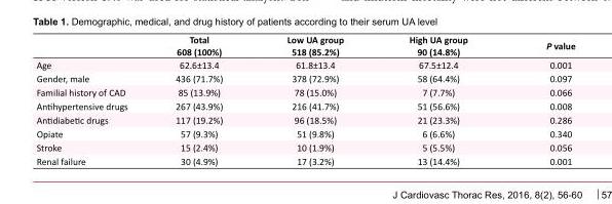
<table><thead><tr><td></td><td>Total 608 (100%)</td><td>Low UA group 518 (85.2%)</td><td>High UA group 90 (14.8%)</td><td>P value</td></tr></thead><tbody><tr><td>Age</td><td>62.6±13.4</td><td>61.8±13.4</td><td>67.5±12.4</td><td>0.001</td></tr><tr><td>Gender, male</td><td>436 (71.7%)</td><td>378 (72.9%)</td><td>58 (64.4%)</td><td>0.097</td></tr><tr><td>Familial history of CAD</td><td>85 (13.9%)</td><td>78 (15.0%)</td><td>7 (7.7%)</td><td>0.066</td></tr><tr><td>Antihypertensive drugs</td><td>267 (43.9%)</td><td>216 (41.7%)</td><td>51 (56.6%)</td><td>0.008</td></tr><tr><td>Antidiabetic drugs</td><td>117 (19.2%)</td><td>96 (18.5%)</td><td>21 (23.3%)</td><td>0.286</td></tr><tr><td>Opiate</td><td>57 (9.3%)</td><td>51 (9.8%)</td><td>6 (6.6%)</td><td>0.340</td></tr><tr><td>Stroke</td><td>15 (2.4%)</td><td>10 (1.9%)</td><td>5 (5.5%)</td><td>0.056</td></tr><tr><td>Renal failure</td><td>30 (4.9%)</td><td>17 (3.2%)</td><td>13 (14.4%)</td><td>0.001</td></tr></tbody></table>